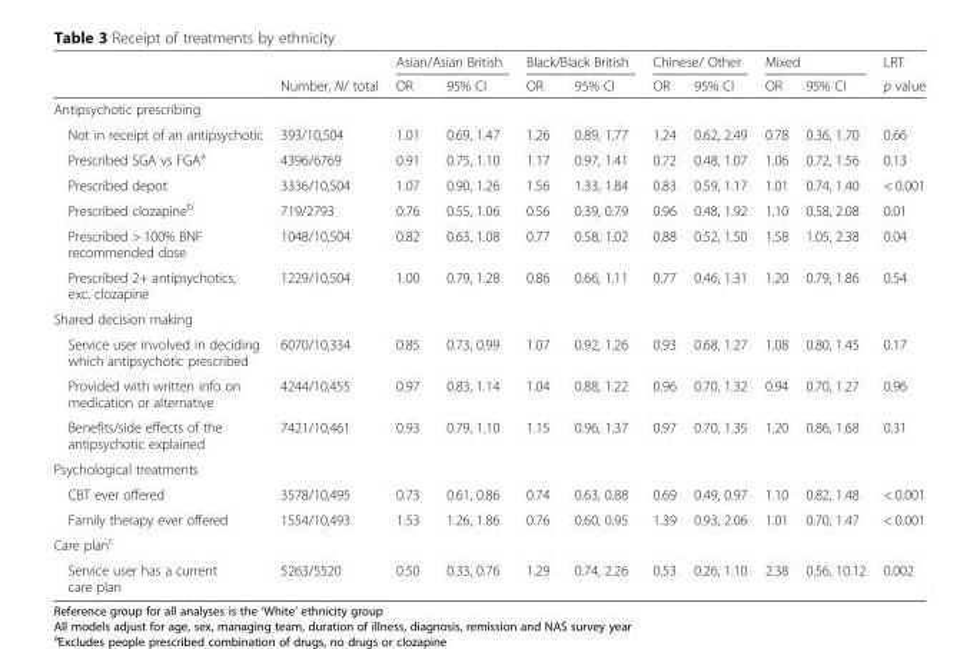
<table><thead><tr><td rowspan="2"></td><td rowspan="2">Number, N/ total</td><td colspan="2">Asian/Asian British</td><td colspan="2">Black/Black British</td><td colspan="2">Chinese/ Other</td><td colspan="2">Mixed</td><td rowspan="2">LRT p value</td></tr><tr><td>OR</td><td>95% CI</td><td>OR</td><td>95% CI</td><td>OR</td><td>95% CI</td><td>OR</td><td>95% CI</td></tr></thead><tbody><tr><td colspan="11">Antipsychotic prescribing</td></tr><tr><td>Not in receipt of an antipsychotic</td><td>393/10,504</td><td>1.01</td><td>0.69, 1.47</td><td>1.26</td><td>0.89, 1.77</td><td>1.24</td><td>0.62, 2.49</td><td>0.78</td><td>0.36, 1.70</td><td>0.66</td></tr><tr><td>Prescribed SGA vs FGA<sup>a</sup></td><td>4396/6769</td><td>0.91</td><td>0.75, 1.10</td><td>1.17</td><td>0.97, 1.41</td><td>0.72</td><td>0.48, 1.07</td><td>1.06</td><td>0.72, 1.56</td><td>0.13</td></tr><tr><td>Prescribed depot</td><td>3336/10,504</td><td>1.07</td><td>0.90, 1.26</td><td>1.56</td><td>1.33, 1.84</td><td>0.83</td><td>0.59, 1.17</td><td>1.01</td><td>0.74, 1.40</td><td>&lt; 0.001</td></tr><tr><td>Prescribed clozapine<sup>b`</sup></td><td>719/2793</td><td>0.76</td><td>0.55, 1.06</td><td>0.56</td><td>0.39, 0.79</td><td>0.96</td><td>0.48, 1.92</td><td>1.10</td><td>0.58, 2.08</td><td>0.01</td></tr><tr><td>Prescribed &gt; 100% BNF recommended dose</td><td>1048/10,504</td><td>0.82</td><td>0.63, 1.08</td><td>0.77</td><td>0.58, 1.02</td><td>0.88</td><td>0.52, 1.50</td><td>1.58</td><td>1.05, 2.38</td><td>0.04</td></tr><tr><td>Prescribed 2+ antipsychotics, exc. clozapine</td><td>1229/10,504</td><td>1.00</td><td>0.79, 1.28</td><td>0.86</td><td>0.66, 1.11</td><td>0.77</td><td>0.46, 1.31</td><td>1.20</td><td>0.79, 1.86</td><td>0.54</td></tr><tr><td colspan="11">Shared decision making</td></tr><tr><td>Service user involved in deciding which antipsychotic prescribed</td><td>6070/10,334</td><td>0.85</td><td>0.73, 0.99</td><td>1.07</td><td>0.92, 1.26</td><td>0.93</td><td>0.68, 1.27</td><td>1.08</td><td>0.80, 1.45</td><td>0.17</td></tr><tr><td>Provided with written info on medication or alternative</td><td>4244/10,455</td><td>0.97</td><td>0.83, 1.14</td><td>1.04</td><td>0.88, 1.22</td><td>0.96</td><td>0.70, 1.32</td><td>0.94</td><td>0.70, 1.27</td><td>0.96</td></tr><tr><td>Benefits/side effects of the antipsychotic explained</td><td>7421/10,461</td><td>0.93</td><td>0.79, 1.10</td><td>1.15</td><td>0.96, 1.37</td><td>0.97</td><td>0.70, 1.35</td><td>1.20</td><td>0.86, 1.68</td><td>0.31</td></tr><tr><td colspan="11">Psychological treatments</td></tr><tr><td>CBT ever offered</td><td>3578/10,495</td><td>0.73</td><td>0.61, 0.86</td><td>0.74</td><td>0.63, 0.88</td><td>0.69</td><td>0.49, 0.97</td><td>1.10</td><td>0.82, 1.48</td><td>&lt; 0.001</td></tr><tr><td>Family therapy ever offered</td><td>1554/10,493</td><td>1.53</td><td>1.26, 1.86</td><td>0.76</td><td>0.60, 0.95</td><td>1.39</td><td>0.93, 2.06</td><td>1.01</td><td>0.70, 1.47</td><td>&lt; 0.001</td></tr><tr><td colspan="11">Care plan<sup>c</sup></td></tr><tr><td>Service user has a current care plan</td><td>5263/5520</td><td>0.50</td><td>0.33, 0.76</td><td>1.29</td><td>0.74, 2.26</td><td>0.53</td><td>0.26, 1.10</td><td>2.38</td><td>0.56, 10.12</td><td>0.002</td></tr></tbody></table>